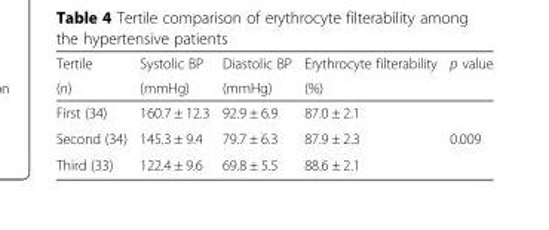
<table><thead><tr><td rowspan="2">Tertile (n)</td><td rowspan="2">Systolic BP (mmHg)</td><td rowspan="2">Diastolic BP (mmHg)</td><td rowspan="2">Erythrocyte filterability (%)</td><td rowspan="2">p value</td></tr><tr></tr></thead><tbody><tr><td>First (34)</td><td>160.7 ± 12.3</td><td>92.9 ± 6.9</td><td>87.0 ± 2.1</td><td></td></tr><tr><td>Second (34)</td><td>145.3 ± 9.4</td><td>79.7 ± 6.3</td><td>87.9 ± 2.3</td><td>0.009</td></tr><tr><td>Third (33)</td><td>122.4 ± 9.6</td><td>69.8 ± 5.5</td><td>88.6 ± 2.1</td><td></td></tr></tbody></table>